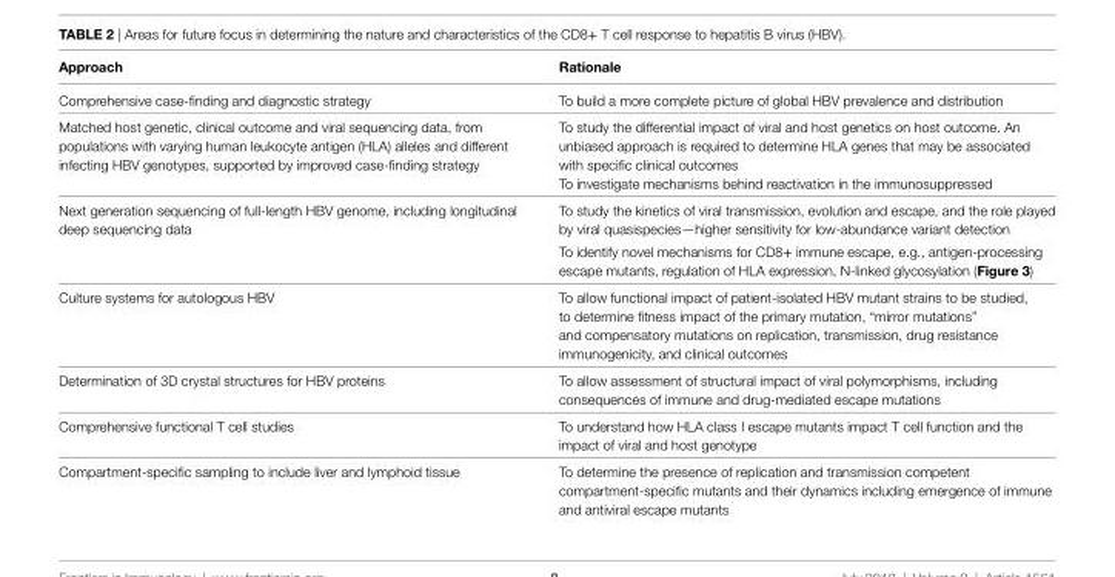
<table><thead><tr><td>Approach</td><td>Rationale</td></tr></thead><tbody><tr><td>Comprehensive case-finding and diagnostic strategy</td><td>To build a more complete picture of global HBV prevalence and distribution</td></tr><tr><td>Matched host genetic, clinical outcome and viral sequencing data, from populations with varying human leukocyte antigen (HLA) alleles and different infecting HBV genotypes, supported by improved case-finding strategy</td><td>To study the differential impact of viral and host genetics on host outcome. An unbiased approach is required to determine HLA genes that may be associated with specific clinical outcomes To investigate mechanisms behind reactivation in the immunosuppressed</td></tr><tr><td>Next generation sequencing of full-length HBV genome, including longitudinal deep sequencing data</td><td>To study the kinetics of viral transmission, evolution and escape, and the role played by viral quasispecies—higher sensitivity for low-abundance variant detection To identify novel mechanisms for CD8+ immune escape, e.g., antigen-processing escape mutants, regulation of HLA expression, N-linked glycosylation (Figure 3)</td></tr><tr><td>Culture systems for autologous HBV</td><td>To allow functional impact of patient-isolated HBV mutant strains to be studied, to determine fitness impact of the primary mutation, “mirror mutations” and compensatory mutations on replication, transmission, drug resistance immunogenicity, and clinical outcomes</td></tr><tr><td>Determination of 3D crystal structures for HBV proteins</td><td>To allow assessment of structural impact of viral polymorphisms, including consequences of immune and drug-mediated escape mutations</td></tr><tr><td>Comprehensive functional T cell studies</td><td>To understand how HLA class I escape mutants impact T cell function and the impact of viral and host genotype</td></tr><tr><td>Compartment-specific sampling to include liver and lymphoid tissue</td><td>To determine the presence of replication and transmission competent compartment-specific mutants and their dynamics including emergence of immune and antiviral escape mutants</td></tr></tbody></table>